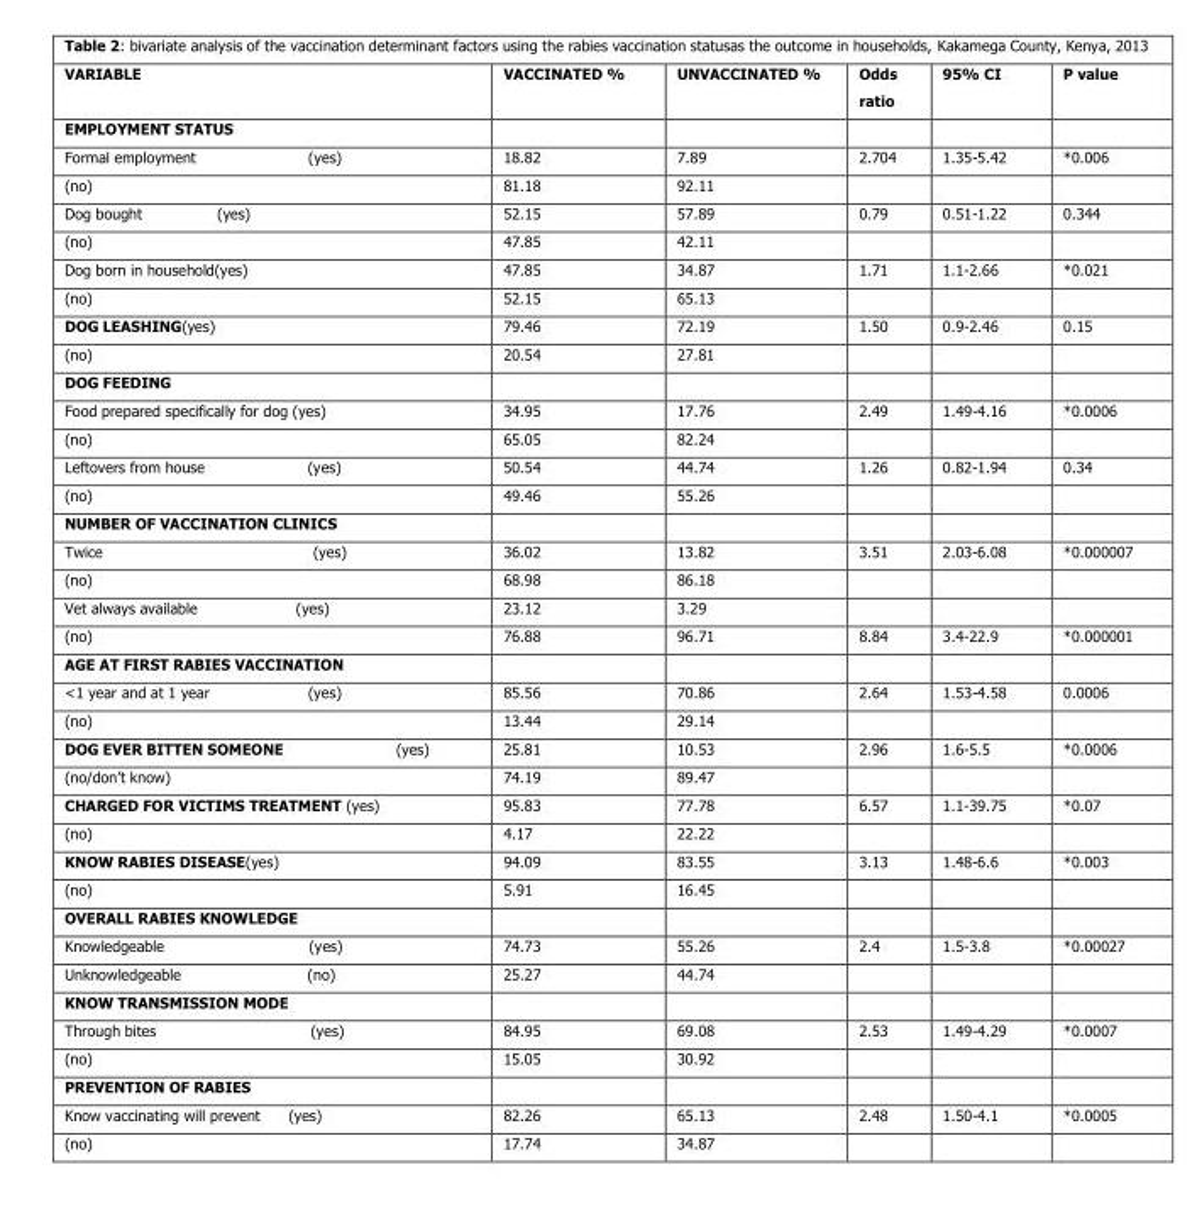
<table><thead><tr><td>VARIABLE</td><td>VACCINATED %</td><td>UNVACCINATED %</td><td>Odds ratio</td><td>95% CI</td><td>P value</td></tr></thead><tbody><tr><td colspan="6">EMPLOYMENT STATUS</td></tr><tr><td>Formal employment (yes)</td><td>18.82</td><td>7.89</td><td>2.704</td><td>1.35-5.42</td><td>*0.006</td></tr><tr><td>(no)</td><td>81.18</td><td>92.11</td><td></td><td></td><td></td></tr><tr><td>Dog bought (yes)</td><td>52.15</td><td>57.89</td><td>0.79</td><td>0.51-1.22</td><td>0.344</td></tr><tr><td>(no)</td><td>47.85</td><td>42.11</td><td></td><td></td><td></td></tr><tr><td>Dog born in household(yes)</td><td>47.85</td><td>34.87</td><td>1.71</td><td>1.1-2.66</td><td>*0.021</td></tr><tr><td>(no)</td><td>52.15</td><td>65.13</td><td></td><td></td><td></td></tr><tr><td>DOG LEASHING(yes)</td><td>79.46</td><td>72.19</td><td>1.50</td><td>0.9-2.46</td><td>0.15</td></tr><tr><td>(no)</td><td>20.54</td><td>27.81</td><td></td><td></td><td></td></tr><tr><td colspan="6">DOG FEEDING</td></tr><tr><td>Food prepared specifically for dog (yes)</td><td>34.95</td><td>17.76</td><td>2.49</td><td>1.49-4.16</td><td>*0.0006</td></tr><tr><td>(no)</td><td>65.05</td><td>82.24</td><td></td><td></td><td></td></tr><tr><td>Leftovers from house (yes)</td><td>50.54</td><td>44.74</td><td>1.26</td><td>0.82-1.94</td><td>0.34</td></tr><tr><td>(no)</td><td>49.46</td><td>55.26</td><td></td><td></td><td></td></tr><tr><td colspan="6">NUMBER OF VACCINATION CLINICS</td></tr><tr><td>Twice (yes)</td><td>36.02</td><td>13.82</td><td>3.51</td><td>2.03-6.08</td><td>*0.000007</td></tr><tr><td>(no)</td><td>68.98</td><td>86.18</td><td></td><td></td><td></td></tr><tr><td>Vet always available (yes)</td><td>23.12</td><td>3.29</td><td></td><td></td><td></td></tr><tr><td>(no)</td><td>76.88</td><td>96.71</td><td>8.84</td><td>3.4-22.9</td><td>*0.000001</td></tr><tr><td colspan="6">AGE AT FIRST RABIES VACCINATION</td></tr><tr><td>&lt;1 year and at 1 year (yes)</td><td>85.56</td><td>70.86</td><td>2.64</td><td>1.53-4.58</td><td>0.0006</td></tr><tr><td>(no)</td><td>13.44</td><td>29.14</td><td></td><td></td><td></td></tr><tr><td>DOG EVER BITTEN SOMEONE (yes)</td><td>25.81</td><td>10.53</td><td>2.96</td><td>1.6-5.5</td><td>*0.0006</td></tr><tr><td>(no/don’t know)</td><td>74.19</td><td>89.47</td><td></td><td></td><td></td></tr><tr><td>CHARGED FOR VICTIMS TREATMENT (yes)</td><td>95.83</td><td>77.78</td><td>6.57</td><td>1.1-39.75</td><td>*0.07</td></tr><tr><td>(no)</td><td>4.17</td><td>22.22</td><td></td><td></td><td></td></tr><tr><td>KNOW RABIES DISEASE(yes)</td><td>94.09</td><td>83.55</td><td>3.13</td><td>1.48-6.6</td><td>*0.003</td></tr><tr><td>(no)</td><td>5.91</td><td>16.45</td><td></td><td></td><td></td></tr><tr><td colspan="6">OVERALL RABIES KNOWLEDGE</td></tr><tr><td>Knowledgeable (yes)</td><td>74.73</td><td>55.26</td><td>2.4</td><td>1.5-3.8</td><td>*0.00027</td></tr><tr><td>Unknowledgeable (no)</td><td>25.27</td><td>44.74</td><td></td><td></td><td></td></tr><tr><td colspan="6">KNOW TRANSMISSION MODE</td></tr><tr><td>Through bites (yes)</td><td>84.95</td><td>69.08</td><td>2.53</td><td>1.49-4.29</td><td>*0.0007</td></tr><tr><td>(no)</td><td>15.05</td><td>30.92</td><td></td><td></td><td></td></tr><tr><td colspan="6">PREVENTION OF RABIES</td></tr><tr><td>Know vaccinating will prevent (yes)</td><td>82.26</td><td>65.13</td><td>2.48</td><td>1.50-4.1</td><td>*0.0005</td></tr><tr><td>(no)</td><td>17.74</td><td>34.87</td><td></td><td></td><td></td></tr></tbody></table>